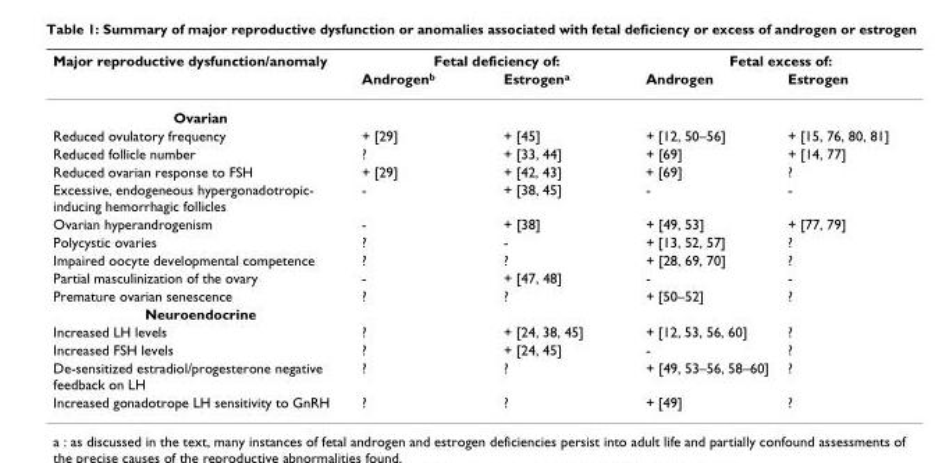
<table><thead><tr><td rowspan="2">Major reproductive dysfunction/anomaly</td><td colspan="2">Fetal deficiency of:</td><td colspan="2">Fetal excess of:</td></tr><tr><td>Androgen<sup>b</sup></td><td>Estrogen<sup>a</sup></td><td>Androgen</td><td>Estrogen</td></tr></thead><tbody><tr><td colspan="5">Ovarian</td></tr><tr><td>Reduced ovulatory frequency</td><td>+ [29]</td><td>+ [45]</td><td>+ [12, 50–56]</td><td>+ [15, 76, 80, 81]</td></tr><tr><td>Reduced follicle number</td><td>?</td><td>+ [33, 44]</td><td>+ [69]</td><td>+ [14, 77]</td></tr><tr><td>Reduced ovarian response to FSH</td><td>+ [29]</td><td>+ [42, 43]</td><td>+ [69]</td><td>?</td></tr><tr><td>Excessive, endogeneous hypergonadotropic- inducing hemorrhagic follicles</td><td>-</td><td>+ [38, 45]</td><td>-</td><td>-</td></tr><tr><td>Ovarian hyperandrogenism</td><td>-</td><td>+ [38]</td><td>+ [49, 53]</td><td>+ [77, 79]</td></tr><tr><td>Polycystic ovaries</td><td>?</td><td>-</td><td>+ [13, 52, 57]</td><td>?</td></tr><tr><td>Impaired oocyte developmental competence</td><td>?</td><td>?</td><td>+ [28, 69, 70]</td><td>?</td></tr><tr><td>Partial masculinization of the ovary</td><td>-</td><td>+ [47, 48]</td><td>-</td><td>-</td></tr><tr><td>Premature ovarian senescence</td><td>?</td><td>?</td><td>+ [50–52]</td><td>?</td></tr><tr><td colspan="5">Neuroendocrine</td></tr><tr><td>Increased LH levels</td><td>?</td><td>+ [24, 38, 45]</td><td>+ [12, 53, 56, 60]</td><td>?</td></tr><tr><td>Increased FSH levels</td><td>?</td><td>+ [24, 45]</td><td>-</td><td>?</td></tr><tr><td>De-sensitized estradiol/progesterone negative feedback on LH</td><td>?</td><td>?</td><td>+ [49, 53–56, 58–60]</td><td>?</td></tr><tr><td>Increased gonadotrope LH sensitivity to GnRH</td><td>?</td><td>?</td><td>+ [49]</td><td>?</td></tr></tbody></table>